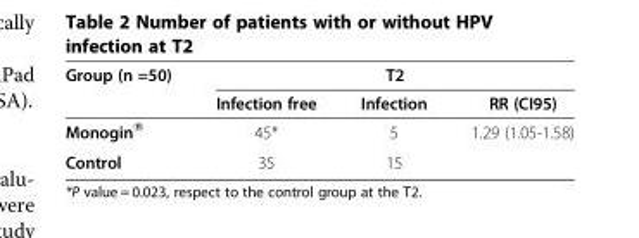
<table><thead><tr><td rowspan="2">Group (n =50)</td><td colspan="3">T2</td></tr><tr><td>Infection free</td><td>Infection</td><td>RR (CI95)</td></tr></thead><tbody><tr><td>Monogin®</td><td>45*</td><td>5</td><td>1.29 (1.05-1.58)</td></tr><tr><td>Control</td><td>35</td><td>15</td><td></td></tr></tbody></table>